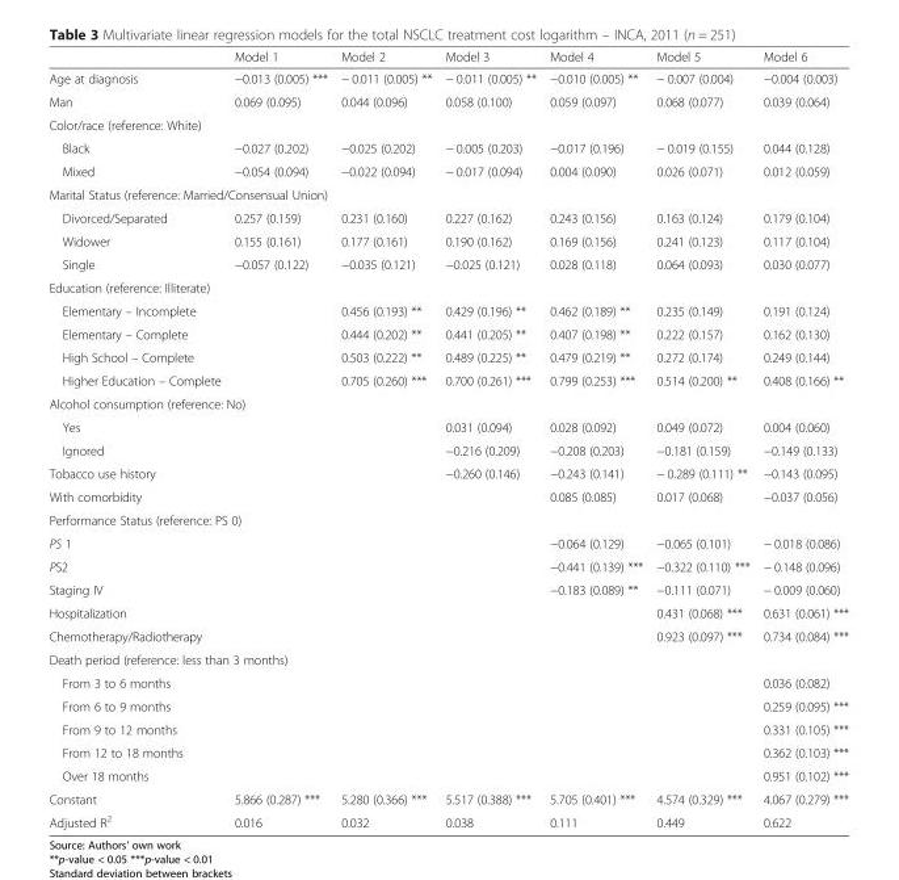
<table><thead><tr><td></td><td>Model 1</td><td>Model 2</td><td>Model 3</td><td>Model 4</td><td>Model 5</td><td>Model 6</td></tr></thead><tbody><tr><td>Age at diagnosis</td><td>−0.013 (0.005) ***</td><td>− 0.011 (0.005) **</td><td>− 0.011 (0.005) **</td><td>−0.010 (0.005) **</td><td>− 0.007 (0.004)</td><td>−0.004 (0.003)</td></tr><tr><td>Man</td><td>0.069 (0.095)</td><td>0.044 (0.096)</td><td>0.058 (0.100)</td><td>0.059 (0.097)</td><td>0.068 (0.077)</td><td>0.039 (0.064)</td></tr><tr><td colspan="7">Color/race (reference: White)</td></tr><tr><td>Black</td><td>−0.027 (0.202)</td><td>−0.025 (0.202)</td><td>− 0.005 (0.203)</td><td>−0.017 (0.196)</td><td>− 0.019 (0.155)</td><td>0.044 (0.128)</td></tr><tr><td>Mixed</td><td>−0.054 (0.094)</td><td>−0.022 (0.094)</td><td>− 0.017 (0.094)</td><td>0.004 (0.090)</td><td>0.026 (0.071)</td><td>0.012 (0.059)</td></tr><tr><td colspan="7">Marital Status (reference: Married/Consensual Union)</td></tr><tr><td>Divorced/Separated</td><td>0.257 (0.159)</td><td>0.231 (0.160)</td><td>0.227 (0.162)</td><td>0.243 (0.156)</td><td>0.163 (0.124)</td><td>0.179 (0.104)</td></tr><tr><td>Widower</td><td>0.155 (0.161)</td><td>0.177 (0.161)</td><td>0.190 (0.162)</td><td>0.169 (0.156)</td><td>0.241 (0.123)</td><td>0.117 (0.104)</td></tr><tr><td>Single</td><td>−0.057 (0.122)</td><td>−0.035 (0.121)</td><td>−0.025 (0.121)</td><td>0.028 (0.118)</td><td>0.064 (0.093)</td><td>0.030 (0.077)</td></tr><tr><td colspan="7">Education (reference: Illiterate)</td></tr><tr><td>Elementary – Incomplete</td><td></td><td>0.456 (0.193) **</td><td>0.429 (0.196) **</td><td>0.462 (0.189) **</td><td>0.235 (0.149)</td><td>0.191 (0.124)</td></tr><tr><td>Elementary – Complete</td><td></td><td>0.444 (0.202) **</td><td>0.441 (0.205) **</td><td>0.407 (0.198) **</td><td>0.222 (0.157)</td><td>0.162 (0.130)</td></tr><tr><td>High School – Complete</td><td></td><td>0.503 (0.222) **</td><td>0.489 (0.225) **</td><td>0.479 (0.219) **</td><td>0.272 (0.174)</td><td>0.249 (0.144)</td></tr><tr><td>Higher Education – Complete</td><td></td><td>0.705 (0.260) ***</td><td>0.700 (0.261) ***</td><td>0.799 (0.253) ***</td><td>0.514 (0.200) **</td><td>0.408 (0.166) **</td></tr><tr><td colspan="7">Alcohol consumption (reference: No)</td></tr><tr><td>Yes</td><td></td><td></td><td>0.031 (0.094)</td><td>0.028 (0.092)</td><td>0.049 (0.072)</td><td>0.004 (0.060)</td></tr><tr><td>Ignored</td><td></td><td></td><td>−0.216 (0.209)</td><td>−0.208 (0.203)</td><td>−0.181 (0.159)</td><td>−0.149 (0.133)</td></tr><tr><td>Tobacco use history</td><td></td><td></td><td>−0.260 (0.146)</td><td>−0.243 (0.141)</td><td>− 0.289 (0.111) **</td><td>−0.143 (0.095)</td></tr><tr><td>With comorbidity</td><td></td><td></td><td></td><td>0.085 (0.085)</td><td>0.017 (0.068)</td><td>−0.037 (0.056)</td></tr><tr><td colspan="7">Performance Status (reference: PS 0)</td></tr><tr><td>PS 1</td><td></td><td></td><td></td><td>−0.064 (0.129)</td><td>−0.065 (0.101)</td><td>− 0.018 (0.086)</td></tr><tr><td>PS2</td><td></td><td></td><td></td><td>−0.441 (0.139) ***</td><td>−0.322 (0.110) ***</td><td>− 0.148 (0.096)</td></tr><tr><td>Staging IV</td><td></td><td></td><td></td><td>−0.183 (0.089) **</td><td>−0.111 (0.071)</td><td>− 0.009 (0.060)</td></tr><tr><td>Hospitalization</td><td></td><td></td><td></td><td></td><td>0.431 (0.068) ***</td><td>0.631 (0.061) ***</td></tr><tr><td>Chemotherapy/Radiotherapy</td><td></td><td></td><td></td><td></td><td>0.923 (0.097) ***</td><td>0.734 (0.084) ***</td></tr><tr><td colspan="7">Death period (reference: less than 3 months)</td></tr><tr><td>From 3 to 6 months</td><td></td><td></td><td></td><td></td><td></td><td>0.036 (0.082)</td></tr><tr><td>From 6 to 9 months</td><td></td><td></td><td></td><td></td><td></td><td>0.259 (0.095) ***</td></tr><tr><td>From 9 to 12 months</td><td></td><td></td><td></td><td></td><td></td><td>0.331 (0.105) ***</td></tr><tr><td>From 12 to 18 months</td><td></td><td></td><td></td><td></td><td></td><td>0.362 (0.103) ***</td></tr><tr><td>Over 18 months</td><td></td><td></td><td></td><td></td><td></td><td>0.951 (0.102) ***</td></tr><tr><td>Constant</td><td>5.866 (0.287) ***</td><td>5.280 (0.366) ***</td><td>5.517 (0.388) ***</td><td>5.705 (0.401) ***</td><td>4.574 (0.329) ***</td><td>4.067 (0.279) ***</td></tr><tr><td>Adjusted R<sup>2</sup></td><td>0.016</td><td>0.032</td><td>0.038</td><td>0.111</td><td>0.449</td><td>0.622</td></tr></tbody></table>